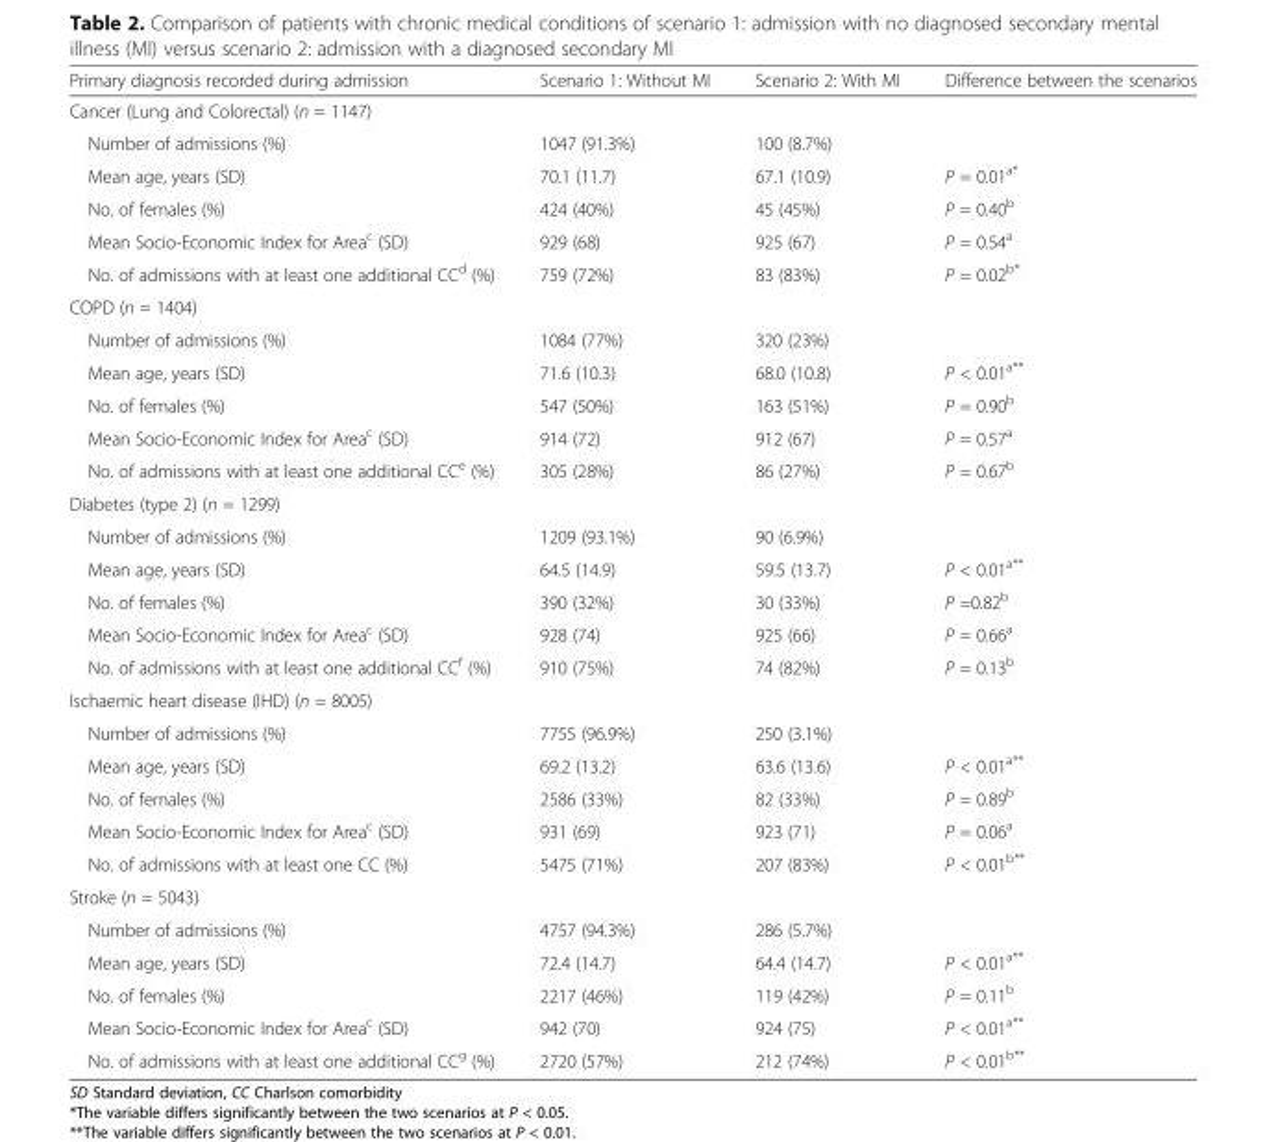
<table><thead><tr><td>Primary diagnosis recorded during admission</td><td>Scenario 1: Without MI</td><td>Scenario 2: With MI</td><td>Difference between the scenarios</td></tr></thead><tbody><tr><td colspan="4">Cancer (Lung and Colorectal) (n = 1147)</td></tr><tr><td>Number of admissions (%)</td><td>1047 (91.3%)</td><td>100 (8.7%)</td><td></td></tr><tr><td>Mean age, years (SD)</td><td>70.1 (11.7)</td><td>67.1 (10.9)</td><td>P = 0.01<sup>a*</sup></td></tr><tr><td>No. of females (%)</td><td>424 (40%)</td><td>45 (45%)</td><td>P = 0.40<sup>b</sup></td></tr><tr><td>Mean Socio-Economic Index for Area<sup>c</sup> (SD)</td><td>929 (68)</td><td>925 (67)</td><td>P = 0.54<sup>a</sup></td></tr><tr><td>No. of admissions with at least one additional CC<sup>d</sup> (%)</td><td>759 (72%)</td><td>83 (83%)</td><td>P = 0.02<sup>b*</sup></td></tr><tr><td colspan="4">COPD (n = 1404)</td></tr><tr><td>Number of admissions (%)</td><td>1084 (77%)</td><td>320 (23%)</td><td></td></tr><tr><td>Mean age, years (SD)</td><td>71.6 (10.3)</td><td>68.0 (10.8)</td><td>P &lt; 0.01<sup>a**</sup></td></tr><tr><td>No. of females (%)</td><td>547 (50%)</td><td>163 (51%)</td><td>P = 0.90<sup>b</sup></td></tr><tr><td>Mean Socio-Economic Index for Area<sup>c</sup> (SD)</td><td>914 (72)</td><td>912 (67)</td><td>P = 0.57<sup>a</sup></td></tr><tr><td>No. of admissions with at least one additional CC<sup>e</sup> (%)</td><td>305 (28%)</td><td>86 (27%)</td><td>P = 0.67<sup>b</sup></td></tr><tr><td colspan="4">Diabetes (type 2) (n = 1299)</td></tr><tr><td>Number of admissions (%)</td><td>1209 (93.1%)</td><td>90 (6.9%)</td><td></td></tr><tr><td>Mean age, years (SD)</td><td>64.5 (14.9)</td><td>59.5 (13.7)</td><td>P &lt; 0.01<sup>a**</sup></td></tr><tr><td>No. of females (%)</td><td>390 (32%)</td><td>30 (33%)</td><td>P =0.82<sup>b</sup></td></tr><tr><td>Mean Socio-Economic Index for Area<sup>c</sup> (SD)</td><td>928 (74)</td><td>925 (66)</td><td>P = 0.66<sup>a</sup></td></tr><tr><td>No. of admissions with at least one additional CC<sup>f</sup> (%)</td><td>910 (75%)</td><td>74 (82%)</td><td>P = 0.13<sup>b</sup></td></tr><tr><td colspan="4">Ischaemic heart disease (IHD) (n = 8005)</td></tr><tr><td>Number of admissions (%)</td><td>7755 (96.9%)</td><td>250 (3.1%)</td><td></td></tr><tr><td>Mean age, years (SD)</td><td>69.2 (13.2)</td><td>63.6 (13.6)</td><td>P &lt; 0.01<sup>a**</sup></td></tr><tr><td>No. of females (%)</td><td>2586 (33%)</td><td>82 (33%)</td><td>P = 0.89<sup>b</sup></td></tr><tr><td>Mean Socio-Economic Index for Area<sup>c</sup> (SD)</td><td>931 (69)</td><td>923 (71)</td><td>P = 0.06<sup>a</sup></td></tr><tr><td>No. of admissions with at least one CC (%)</td><td>5475 (71%)</td><td>207 (83%)</td><td>P &lt; 0.01<sup>b**</sup></td></tr><tr><td colspan="4">Stroke (n = 5043)</td></tr><tr><td>Number of admissions (%)</td><td>4757 (94.3%)</td><td>286 (5.7%)</td><td></td></tr><tr><td>Mean age, years (SD)</td><td>72.4 (14.7)</td><td>64.4 (14.7)</td><td>P &lt; 0.01<sup>a**</sup></td></tr><tr><td>No. of females (%)</td><td>2217 (46%)</td><td>119 (42%)</td><td>P = 0.11<sup>b</sup></td></tr><tr><td>Mean Socio-Economic Index for Area<sup>c</sup> (SD)</td><td>942 (70)</td><td>924 (75)</td><td>P &lt; 0.01<sup>a**</sup></td></tr><tr><td>No. of admissions with at least one additional CC<sup>g</sup> (%)</td><td>2720 (57%)</td><td>212 (74%)</td><td>P &lt; 0.01<sup>b**</sup></td></tr></tbody></table>